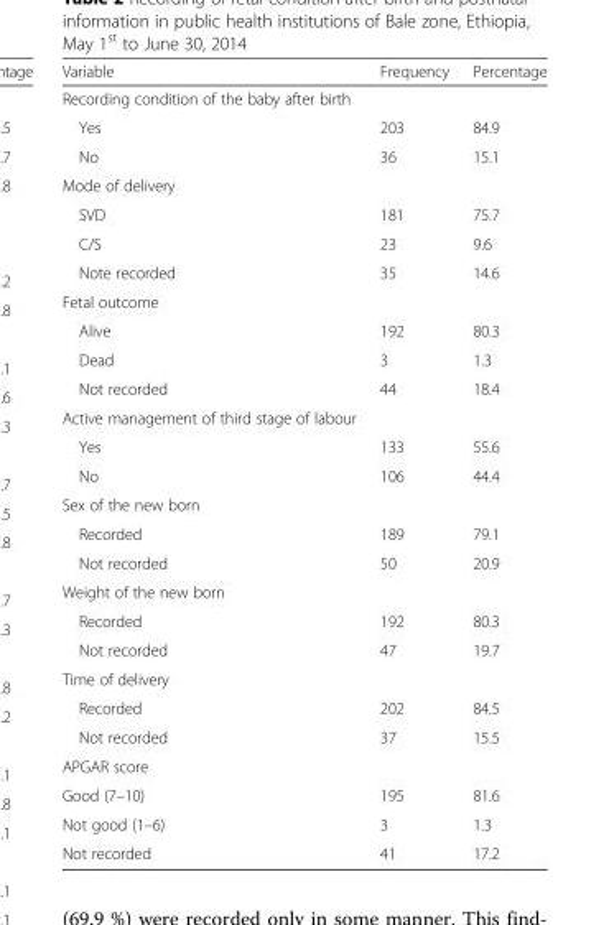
<table><thead><tr><td>Variable</td><td>Frequency</td><td>Percentage</td></tr></thead><tbody><tr><td colspan="3">Recording condition of the baby after birth</td></tr><tr><td>Yes</td><td>203</td><td>84.9</td></tr><tr><td>No</td><td>36</td><td>15.1</td></tr><tr><td colspan="3">Mode of delivery</td></tr><tr><td>SVD</td><td>181</td><td>75.7</td></tr><tr><td>C/S</td><td>23</td><td>9.6</td></tr><tr><td>Note recorded</td><td>35</td><td>14.6</td></tr><tr><td colspan="3">Fetal outcome</td></tr><tr><td>Alive</td><td>192</td><td>80.3</td></tr><tr><td>Dead</td><td>3</td><td>1.3</td></tr><tr><td>Not recorded</td><td>44</td><td>18.4</td></tr><tr><td colspan="3">Active management of third stage of labour</td></tr><tr><td>Yes</td><td>133</td><td>55.6</td></tr><tr><td>No</td><td>106</td><td>44.4</td></tr><tr><td colspan="3">Sex of the new born</td></tr><tr><td>Recorded</td><td>189</td><td>79.1</td></tr><tr><td>Not recorded</td><td>50</td><td>20.9</td></tr><tr><td colspan="3">Weight of the new born</td></tr><tr><td>Recorded</td><td>192</td><td>80.3</td></tr><tr><td>Not recorded</td><td>47</td><td>19.7</td></tr><tr><td colspan="3">Time of delivery</td></tr><tr><td>Recorded</td><td>202</td><td>84.5</td></tr><tr><td>Not recorded</td><td>37</td><td>15.5</td></tr><tr><td colspan="3">APGAR score</td></tr><tr><td>Good (7–10)</td><td>195</td><td>81.6</td></tr><tr><td>Not good (1–6)</td><td>3</td><td>1.3</td></tr><tr><td>Not recorded</td><td>41</td><td>17.2</td></tr></tbody></table>